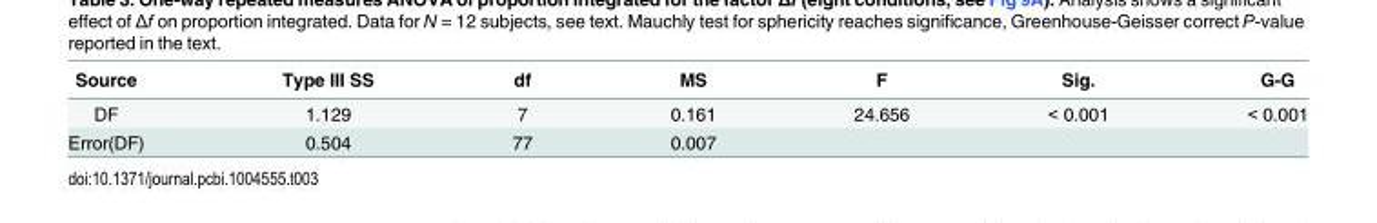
<table><thead><tr><td>Source</td><td>Type III SS</td><td>df</td><td>MS</td><td>F</td><td>Sig.</td><td>G-G</td></tr></thead><tbody><tr><td>DF</td><td>1.129</td><td>7</td><td>0.161</td><td>24.656</td><td>&lt; 0.001</td><td>&lt; 0.001</td></tr><tr><td>Error(DF)</td><td>0.504</td><td>77</td><td>0.007</td><td></td><td></td><td></td></tr></tbody></table>